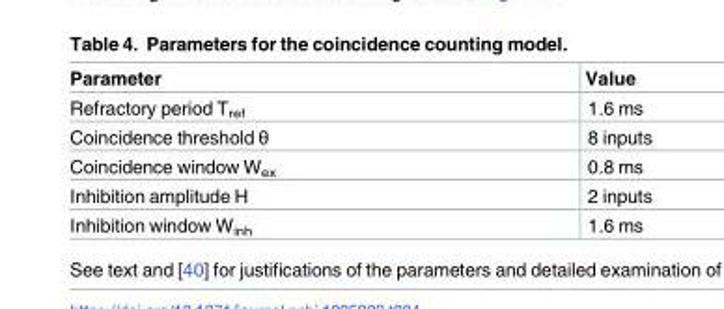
<table><thead><tr><td>Parameter</td><td>Value</td></tr></thead><tbody><tr><td>Refractory period T<sub>ref</sub></td><td>1.6 ms</td></tr><tr><td>Coincidence threshold θ</td><td>8 inputs</td></tr><tr><td>Coincidence window W<sub>ex</sub></td><td>0.8 ms</td></tr><tr><td>Inhibition amplitude H</td><td>2 inputs</td></tr><tr><td>Inhibition window W<sub>inh</sub></td><td>1.6 ms</td></tr></tbody></table>